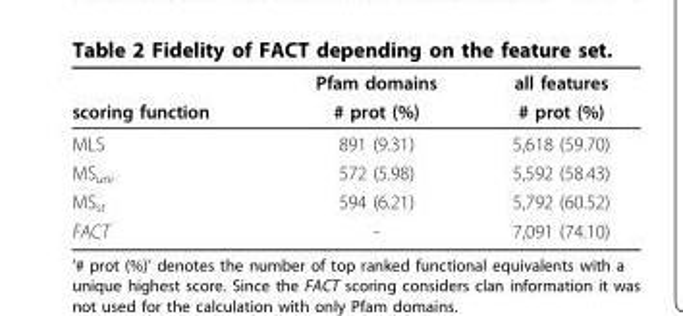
<table><thead><tr><td rowspan="2">scoring function</td><td rowspan="2">Pfam domains # prot (%)</td><td rowspan="2">all features # prot (%)</td></tr><tr></tr></thead><tbody><tr><td>MLS</td><td>891 (9.31)</td><td>5,618 (59.70)</td></tr><tr><td>MS<sub>uni</sub></td><td>572 (5.98)</td><td>5,592 (58.43)</td></tr><tr><td>MS<sub>st</sub></td><td>594 (6.21)</td><td>5,792 (60.52)</td></tr><tr><td>FACT</td><td>-</td><td>7,091 (74.10)</td></tr></tbody></table>